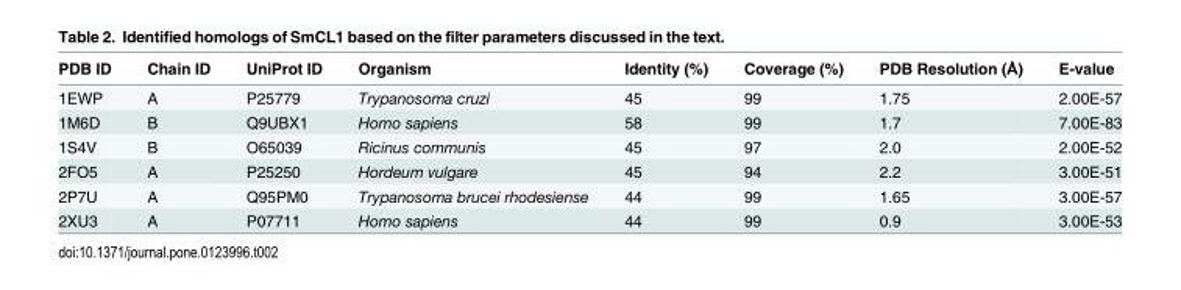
<table><thead><tr><td>PDB ID</td><td>Chain ID</td><td>UniProt ID</td><td>Organism</td><td>Identity (%)</td><td>Coverage (%)</td><td>PDB Resolution (Å)</td><td>E-value</td></tr></thead><tbody><tr><td>1EWP</td><td>A</td><td>P25779</td><td>Trypanosoma cruzi</td><td>45</td><td>99</td><td>1.75</td><td>2.00E-57</td></tr><tr><td>1M6D</td><td>B</td><td>Q9UBX1</td><td>Homo sapiens</td><td>58</td><td>99</td><td>1.7</td><td>7.00E-83</td></tr><tr><td>1S4V</td><td>B</td><td>O65039</td><td>Ricinus communis</td><td>45</td><td>97</td><td>2.0</td><td>2.00E-52</td></tr><tr><td>2FO5</td><td>A</td><td>P25250</td><td>Hordeum vulgare</td><td>45</td><td>94</td><td>2.2</td><td>3.00E-51</td></tr><tr><td>2P7U</td><td>A</td><td>Q95PM0</td><td>Trypanosoma brucei rhodesiense</td><td>44</td><td>99</td><td>1.65</td><td>3.00E-57</td></tr><tr><td>2XU3</td><td>A</td><td>P07711</td><td>Homo sapiens</td><td>44</td><td>99</td><td>0.9</td><td>3.00E-53</td></tr></tbody></table>